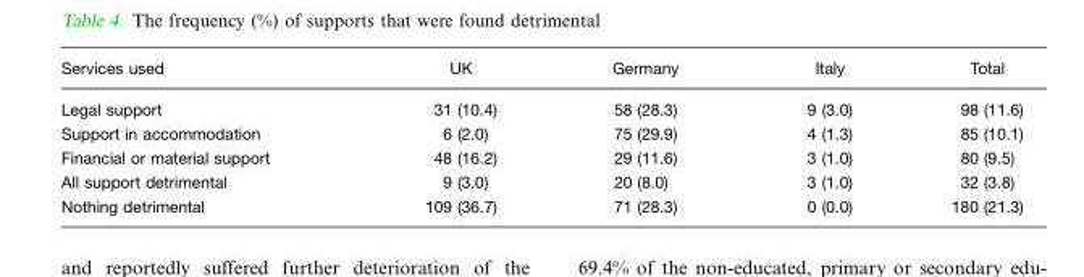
<table><thead><tr><td>Services used</td><td>UK</td><td>Germany</td><td>Italy</td><td>Total</td></tr></thead><tbody><tr><td>Legal support</td><td>31 (10.4)</td><td>58 (28.3)</td><td>9 (3.0)</td><td>98 (11.6)</td></tr><tr><td>Support in accommodation</td><td>6 (2.0)</td><td>75 (29.9)</td><td>4 (1.3)</td><td>85 (10.1)</td></tr><tr><td>Financial or material support</td><td>48 (16.2)</td><td>29 (11.6)</td><td>3 (1.0)</td><td>80 (9.5)</td></tr><tr><td>All support detrimental</td><td>9 (3.0)</td><td>20 (8.0)</td><td>3 (1.0)</td><td>32 (3.8)</td></tr><tr><td>Nothing detrimental</td><td>109 (36.7)</td><td>71 (28.3)</td><td>0 (0.0)</td><td>180 (21.3)</td></tr></tbody></table>